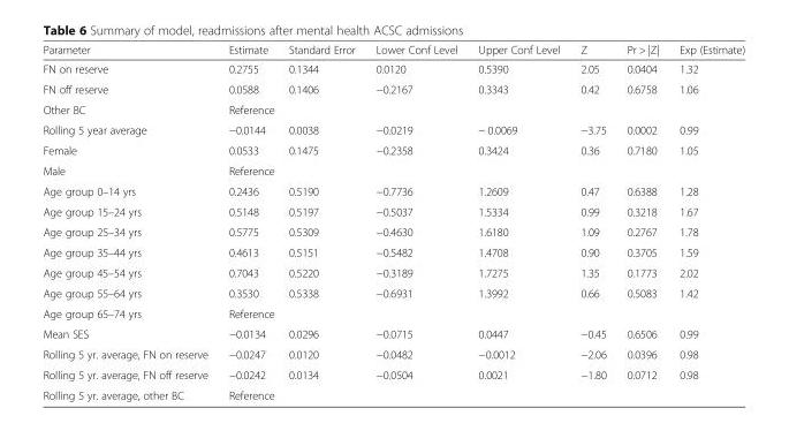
<table><thead><tr><td>Parameter</td><td>Estimate</td><td>Standard Error</td><td>Lower Conf Level</td><td>Upper Conf Level</td><td>Z</td><td>Pr &gt; |Z|</td><td>Exp (Estimate)</td></tr></thead><tbody><tr><td>FN on reserve</td><td>0.2755</td><td>0.1344</td><td>0.0120</td><td>0.5390</td><td>2.05</td><td>0.0404</td><td>1.32</td></tr><tr><td>FN off reserve</td><td>0.0588</td><td>0.1406</td><td>−0.2167</td><td>0.3343</td><td>0.42</td><td>0.6758</td><td>1.06</td></tr><tr><td>Other BC</td><td colspan="7">Reference</td></tr><tr><td>Rolling 5 year average</td><td>−0.0144</td><td>0.0038</td><td>−0.0219</td><td>− 0.0069</td><td>−3.75</td><td>0.0002</td><td>0.99</td></tr><tr><td>Female</td><td>0.0533</td><td>0.1475</td><td>−0.2358</td><td>0.3424</td><td>0.36</td><td>0.7180</td><td>1.05</td></tr><tr><td>Male</td><td colspan="7">Reference</td></tr><tr><td>Age group 0–14 yrs</td><td>0.2436</td><td>0.5190</td><td>−0.7736</td><td>1.2609</td><td>0.47</td><td>0.6388</td><td>1.28</td></tr><tr><td>Age group 15–24 yrs</td><td>0.5148</td><td>0.5197</td><td>−0.5037</td><td>1.5334</td><td>0.99</td><td>0.3218</td><td>1.67</td></tr><tr><td>Age group 25–34 yrs</td><td>0.5775</td><td>0.5309</td><td>−0.4630</td><td>1.6180</td><td>1.09</td><td>0.2767</td><td>1.78</td></tr><tr><td>Age group 35–44 yrs</td><td>0.4613</td><td>0.5151</td><td>−0.5482</td><td>1.4708</td><td>0.90</td><td>0.3705</td><td>1.59</td></tr><tr><td>Age group 45–54 yrs</td><td>0.7043</td><td>0.5220</td><td>−0.3189</td><td>1.7275</td><td>1.35</td><td>0.1773</td><td>2.02</td></tr><tr><td>Age group 55–64 yrs</td><td>0.3530</td><td>0.5338</td><td>−0.6931</td><td>1.3992</td><td>0.66</td><td>0.5083</td><td>1.42</td></tr><tr><td>Age group 65–74 yrs</td><td colspan="7">Reference</td></tr><tr><td>Mean SES</td><td>−0.0134</td><td>0.0296</td><td>−0.0715</td><td>0.0447</td><td>−0.45</td><td>0.6506</td><td>0.99</td></tr><tr><td>Rolling 5 yr. average, FN on reserve</td><td>−0.0247</td><td>0.0120</td><td>−0.0482</td><td>−0.0012</td><td>−2.06</td><td>0.0396</td><td>0.98</td></tr><tr><td>Rolling 5 yr. average, FN off reserve</td><td>−0.0242</td><td>0.0134</td><td>−0.0504</td><td>0.0021</td><td>−1.80</td><td>0.0712</td><td>0.98</td></tr><tr><td>Rolling 5 yr. average, other BC</td><td colspan="7">Reference</td></tr></tbody></table>